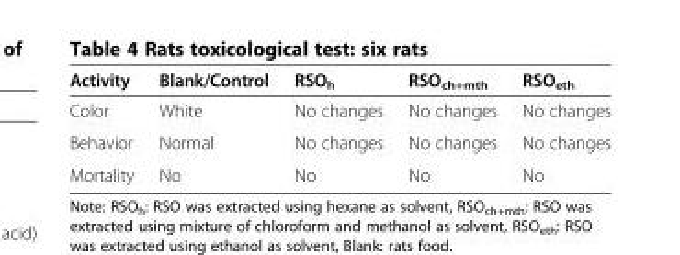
<table><thead><tr><td>Activity</td><td>Blank/Control</td><td>RSO<sub>h</sub></td><td>RSO<sub>ch+mth</sub></td><td>RSO<sub>eth</sub></td></tr></thead><tbody><tr><td>Color</td><td>White</td><td>No changes</td><td>No changes</td><td>No changes</td></tr><tr><td>Behavior</td><td>Normal</td><td>No changes</td><td>No changes</td><td>No changes</td></tr><tr><td>Mortality</td><td>No</td><td>No</td><td>No</td><td>No</td></tr></tbody></table>